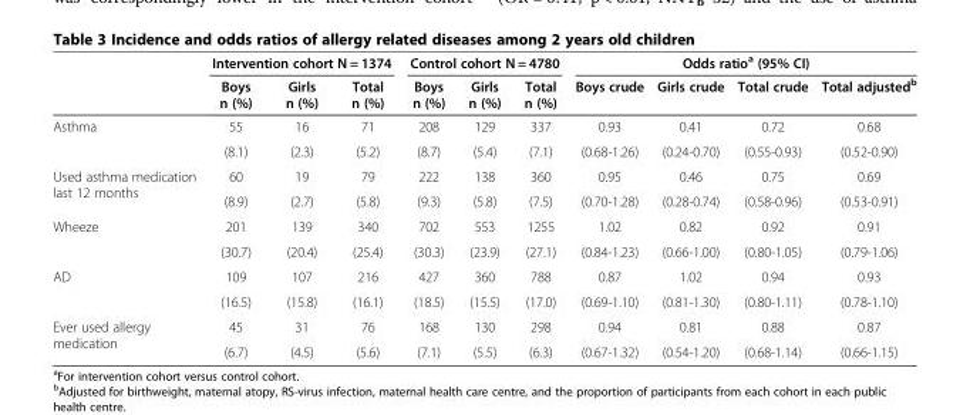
<table><thead><tr><td rowspan="2"></td><td colspan="3">Intervention cohort N = 1374</td><td colspan="3">Control cohort N = 4780</td><td colspan="4">Odds ratio<sup>a</sup> (95% CI)</td></tr><tr><td>Boys n (%)</td><td>Girls n (%)</td><td>Total n (%)</td><td>Boys n (%)</td><td>Girls n (%)</td><td>Total n (%)</td><td>Boys crude</td><td>Girls crude</td><td>Total crude</td><td>Total adjusted<sup>b</sup></td></tr></thead><tbody><tr><td rowspan="2">Asthma</td><td>55</td><td>16</td><td>71</td><td>208</td><td>129</td><td>337</td><td>0.93</td><td>0.41</td><td>0.72</td><td>0.68</td></tr><tr><td>(8.1)</td><td>(2.3)</td><td>(5.2)</td><td>(8.7)</td><td>(5.4)</td><td>(7.1)</td><td>(0.68-1.26)</td><td>(0.24-0.70)</td><td>(0.55-0.93)</td><td>(0.52-0.90)</td></tr><tr><td rowspan="2">Used asthma medication last 12 months</td><td>60</td><td>19</td><td>79</td><td>222</td><td>138</td><td>360</td><td>0.95</td><td>0.46</td><td>0.75</td><td>0.69</td></tr><tr><td>(8.9)</td><td>(2.7)</td><td>(5.8)</td><td>(9.3)</td><td>(5.8)</td><td>(7.5)</td><td>(0.70-1.28)</td><td>(0.28-0.74)</td><td>(0.58-0.96)</td><td>(0.53-0.91)</td></tr><tr><td rowspan="2">Wheeze</td><td>201</td><td>139</td><td>340</td><td>702</td><td>553</td><td>1255</td><td>1.02</td><td>0.82</td><td>0.92</td><td>0.91</td></tr><tr><td>(30.7)</td><td>(20.4)</td><td>(25.4)</td><td>(30.3)</td><td>(23.9)</td><td>(27.1)</td><td>(0.84-1.23)</td><td>(0.66-1.00)</td><td>(0.80-1.05)</td><td>(0.79-1.06)</td></tr><tr><td rowspan="2">AD</td><td>109</td><td>107</td><td>216</td><td>427</td><td>360</td><td>788</td><td>0.87</td><td>1.02</td><td>0.94</td><td>0.93</td></tr><tr><td>(16.5)</td><td>(15.8)</td><td>(16.1)</td><td>(18.5)</td><td>(15.5)</td><td>(17.0)</td><td>(0.69-1.10)</td><td>(0.81-1.30)</td><td>(0.80-1.11)</td><td>(0.78-1.10)</td></tr><tr><td rowspan="2">Ever used allergy medication</td><td>45</td><td>31</td><td>76</td><td>168</td><td>130</td><td>298</td><td>0.94</td><td>0.81</td><td>0.88</td><td>0.87</td></tr><tr><td>(6.7)</td><td>(4.5)</td><td>(5.6)</td><td>(7.1)</td><td>(5.5)</td><td>(6.3)</td><td>(0.67-1.32)</td><td>(0.54-1.20)</td><td>(0.68-1.14)</td><td>(0.66-1.15)</td></tr></tbody></table>